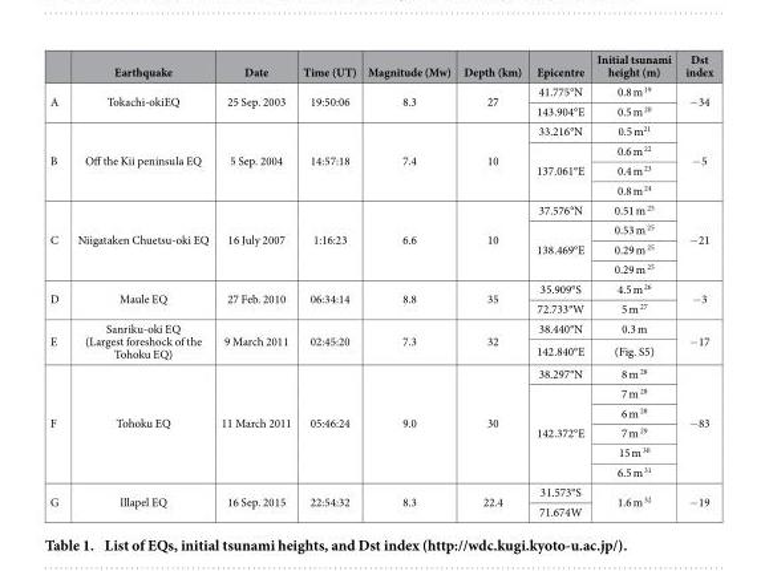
<table><thead><tr><td></td><td>Earthquake</td><td>Date</td><td>Time (UT)</td><td>Magnitude (Mw)</td><td>Depth (km)</td><td>Epicentre</td><td>Initial tsunami height (m)</td><td>Dst index</td></tr></thead><tbody><tr><td rowspan="2">A</td><td rowspan="2">Tokachi-okiEQ</td><td rowspan="2">25 Sep. 2003</td><td rowspan="2">19:50:06</td><td rowspan="2">8.3</td><td rowspan="2">27</td><td>41.775°N</td><td>0.8 m 19</td><td rowspan="2">− 34</td></tr><tr><td>143.904°E</td><td>0.5 m 20</td></tr><tr><td rowspan="4">B</td><td rowspan="4">Off the Kii peninsula EQ</td><td rowspan="4">5 Sep. 2004</td><td rowspan="4">14:57:18</td><td rowspan="4">7.4</td><td rowspan="4">10</td><td>33.216°N</td><td>0.5 m<sup>21</sup></td><td rowspan="4">− 5</td></tr><tr><td rowspan="3">137.061°E</td><td>0.6 m 22</td></tr><tr><td>0.4 m 23</td></tr><tr><td>0.8 m 24</td></tr><tr><td rowspan="4">C</td><td rowspan="4">Niigataken Chuetsu-oki EQ</td><td rowspan="4">16 July 2007</td><td rowspan="4">1:16:23</td><td rowspan="4">6.6</td><td rowspan="4">10</td><td>37.576°N</td><td>0.51 m 25</td><td rowspan="4">− 21</td></tr><tr><td rowspan="3">138.469°E</td><td>0.53 m 25</td></tr><tr><td>0.29 m 25</td></tr><tr><td>0.29 m 25</td></tr><tr><td rowspan="2">D</td><td rowspan="2">Maule EQ</td><td rowspan="2">27 Feb. 2010</td><td rowspan="2">06:34:14</td><td rowspan="2">8.8</td><td rowspan="2">35</td><td>35.909°S</td><td>4.5 m 26</td><td rowspan="2">− 3</td></tr><tr><td>72.733°W</td><td>5 m 27</td></tr><tr><td rowspan="2">E</td><td rowspan="2">Sanriku-oki EQ (Largest foreshock of the Tohoku EQ)</td><td rowspan="2">9 March 2011</td><td rowspan="2">02:45:20</td><td rowspan="2">7.3</td><td rowspan="2">32</td><td>38.440°N</td><td>0.3 m</td><td rowspan="2">− 17</td></tr><tr><td>142.840°E</td><td>(Fig. S5)</td></tr><tr><td rowspan="6">F</td><td rowspan="6">Tohoku EQ</td><td rowspan="6">11 March 2011</td><td rowspan="6">05:46:24</td><td rowspan="6">9.0</td><td rowspan="6">30</td><td>38.297°N</td><td>8 m 28</td><td rowspan="6">− 83</td></tr><tr><td rowspan="5">142.372°E</td><td>7 m 28</td></tr><tr><td>6 m 28</td></tr><tr><td>7 m 29</td></tr><tr><td>15 m 30</td></tr><tr><td>6.5 m 31</td></tr><tr><td rowspan="2">G</td><td rowspan="2">Illapel EQ</td><td rowspan="2">16 Sep. 2015</td><td rowspan="2">22:54:32</td><td rowspan="2">8.3</td><td rowspan="2">22.4</td><td>31.573°S</td><td rowspan="2">1.6 m 32</td><td rowspan="2">− 19</td></tr><tr><td>71.674W</td></tr></tbody></table>